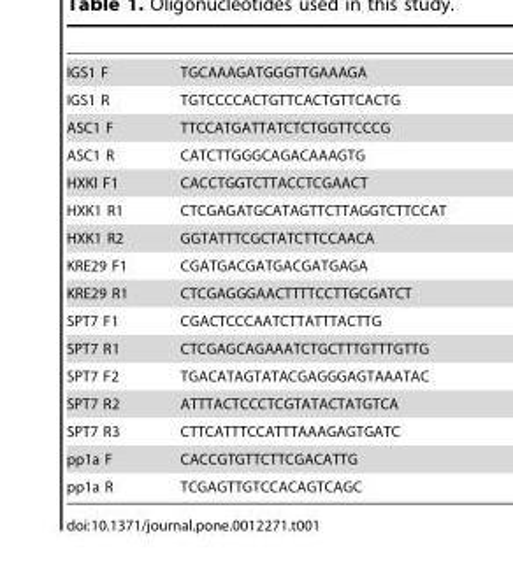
<table><tbody><tr><td>IGS1 F</td><td>TGCAAAGATGGGTTGAAAGA</td></tr><tr><td>IGS1 R</td><td>TGTCCCCACTGTTCACTGTTCACTG</td></tr><tr><td>ASC1 F</td><td>TTCCATGATTATCTCTGGTTCCCG</td></tr><tr><td>ASC1 R</td><td>CATCTTGGGCAGACAAAGTG</td></tr><tr><td>HXKl F1</td><td>CACCTGGTCTTACCTCGAACT</td></tr><tr><td>HXK1 R1</td><td>CTCGAGATGCATAGTTCTTAGGTCTTCCAT</td></tr><tr><td>HXK1 R2</td><td>GGTATTTCGCTATCTTCCAACA</td></tr><tr><td>KRE29 F1</td><td>CGATGACGATGACGATGAGA</td></tr><tr><td>KRE29 R1</td><td>CTCGAGGGAACTTTTCCTTGCGATCT</td></tr><tr><td>SPT7 F1</td><td>CGACTCCCAATCTTATTTACTTG</td></tr><tr><td>SPT7 R1</td><td>CTCGAGCAGAAATCTGCTTTGTTTGTTG</td></tr><tr><td>SPT7 F2</td><td>TGACATAGTATACGAGGGAGTAAATAC</td></tr><tr><td>SPT7 R2</td><td>ATTTACTCCCTCGTATACTATGTCA</td></tr><tr><td>SPT7 R3</td><td>CTTCATTTCCATTTAAAGAGTGATC</td></tr><tr><td>pp1a F</td><td>CACCGTGTTCTTCGACATTG</td></tr><tr><td>pp1a R</td><td>TCGAGTTGTCCACAGTCAGC</td></tr></tbody></table>